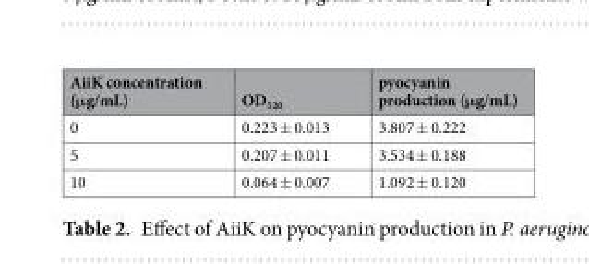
<table><thead><tr><td>AiiK concentration (μg/mL)</td><td>OD<sub>520</sub></td><td>pyocyanin production (μg/mL)</td></tr></thead><tbody><tr><td>0</td><td>0.223 ± 0.013</td><td>3.807 ± 0.222</td></tr><tr><td>5</td><td>0.207 ± 0.011</td><td>3.534 ± 0.188</td></tr><tr><td>10</td><td>0.064 ± 0.007</td><td>1.092 ± 0.120</td></tr></tbody></table>